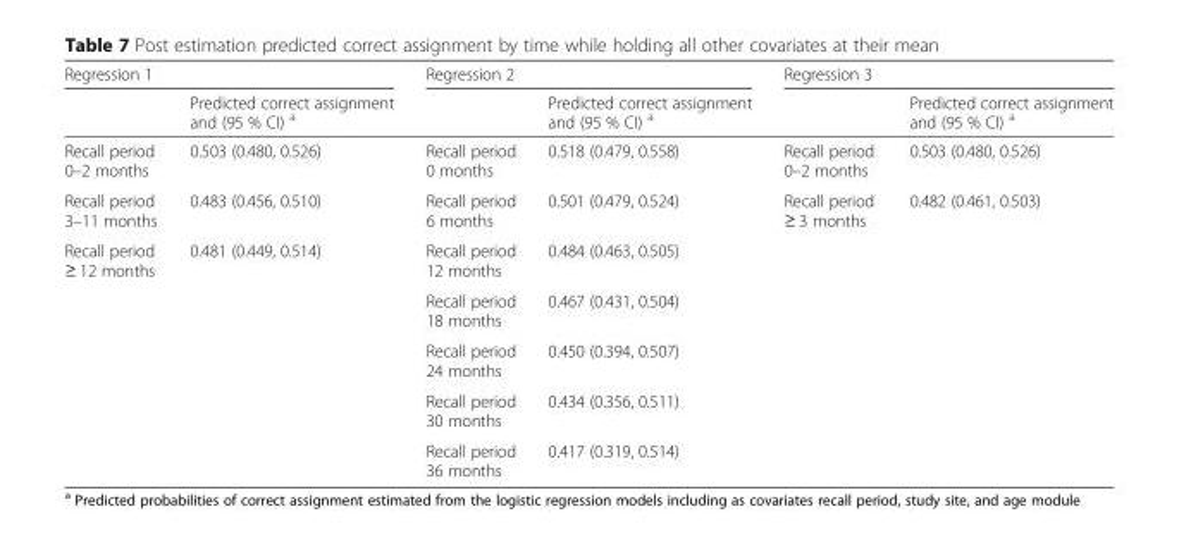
<table><thead><tr><td colspan="2">Regression 1</td><td colspan="2">Regression 2</td><td colspan="2">Regression 3</td></tr><tr><td></td><td>Predicted correct assignment and (95 % CI) <sup>a</sup></td><td></td><td>Predicted correct assignment and (95 % CI) <sup>a</sup></td><td></td><td>Predicted correct assignment and (95 % CI) <sup>a</sup></td></tr></thead><tbody><tr><td>Recall period 0–2 months</td><td>0.503 (0.480, 0.526)</td><td>Recall period 0 months</td><td>0.518 (0.479, 0.558)</td><td>Recall period 0–2 months</td><td>0.503 (0.480, 0.526)</td></tr><tr><td>Recall period 3–11 months</td><td>0.483 (0.456, 0.510)</td><td>Recall period 6 months</td><td>0.501 (0.479, 0.524)</td><td>Recall period ≥ 3 months</td><td>0.482 (0.461, 0.503)</td></tr><tr><td rowspan="5">Recall period ≥ 12 months</td><td>0.481 (0.449, 0.514)</td><td>Recall period 12 months</td><td>0.484 (0.463, 0.505)</td><td></td><td></td></tr><tr><td></td><td>Recall period 18 months</td><td>0.467 (0.431, 0.504)</td><td></td><td></td></tr><tr><td></td><td>Recall period 24 months</td><td>0.450 (0.394, 0.507)</td><td></td><td></td></tr><tr><td></td><td>Recall period 30 months</td><td>0.434 (0.356, 0.511)</td><td></td><td></td></tr><tr><td></td><td>Recall period 36 months</td><td>0.417 (0.319, 0.514)</td><td></td><td></td></tr></tbody></table>